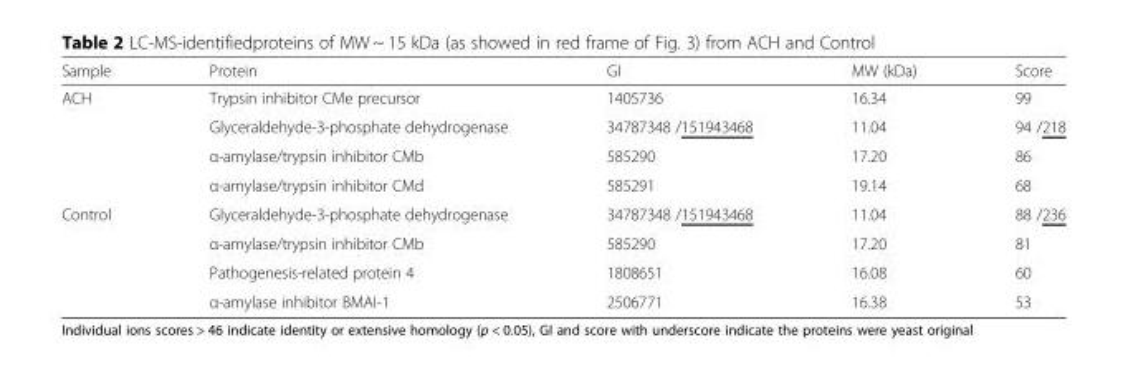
<table><thead><tr><td>Sample</td><td>Protein</td><td>GI</td><td>MW (kDa)</td><td>Score</td></tr></thead><tbody><tr><td rowspan="4">ACH</td><td>Trypsin inhibitor CMe precursor</td><td>1405736</td><td>16.34</td><td>99</td></tr><tr><td>Glyceraldehyde-3-phosphate dehydrogenase</td><td>34787348 /151943468</td><td>11.04</td><td>94 /218</td></tr><tr><td>α-amylase/trypsin inhibitor CMb</td><td>585290</td><td>17.20</td><td>86</td></tr><tr><td>α-amylase/trypsin inhibitor CMd</td><td>585291</td><td>19.14</td><td>68</td></tr><tr><td rowspan="4">Control</td><td>Glyceraldehyde-3-phosphate dehydrogenase</td><td>34787348 /151943468</td><td>11.04</td><td>88 /236</td></tr><tr><td>α-amylase/trypsin inhibitor CMb</td><td>585290</td><td>17.20</td><td>81</td></tr><tr><td>Pathogenesis-related protein 4</td><td>1808651</td><td>16.08</td><td>60</td></tr><tr><td>α-amylase inhibitor BMAI-1</td><td>2506771</td><td>16.38</td><td>53</td></tr></tbody></table>